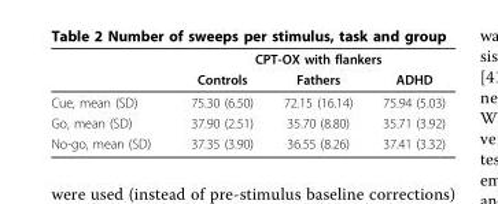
<table><thead><tr><td rowspan="2"></td><td colspan="3">CPT-OX with flankers</td></tr><tr><td>Controls</td><td>Fathers</td><td>ADHD</td></tr></thead><tbody><tr><td>Cue, mean (SD)</td><td>75.30 (6.50)</td><td>72.15 (16.14)</td><td>75.94 (5.03)</td></tr><tr><td>Go, mean (SD)</td><td>37.90 (2.51)</td><td>35.70 (8.80)</td><td>35.71 (3.92)</td></tr><tr><td>No-go, mean (SD)</td><td>37.35 (3.90)</td><td>36.55 (8.26)</td><td>37.41 (3.32)</td></tr></tbody></table>